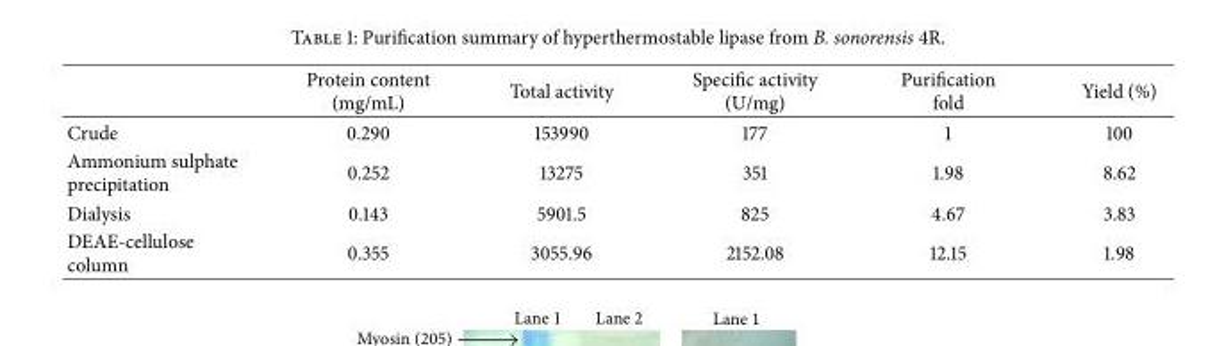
<table><thead><tr><td></td><td>Protein content (mg/mL)</td><td>Total activity</td><td>Specific activity (U/mg)</td><td>Purification fold</td><td>Yield (%)</td></tr></thead><tbody><tr><td>Crude</td><td>0.290</td><td>153990</td><td>177</td><td>1</td><td>100</td></tr><tr><td>Ammonium sulphate precipitation</td><td>0.252</td><td>13275</td><td>351</td><td>1.98</td><td>8.62</td></tr><tr><td>Dialysis</td><td>0.143</td><td>5901.5</td><td>825</td><td>4.67</td><td>3.83</td></tr><tr><td>DEAE-cellulose column</td><td>0.355</td><td>3055.96</td><td>2152.08</td><td>12.15</td><td>1.98</td></tr></tbody></table>